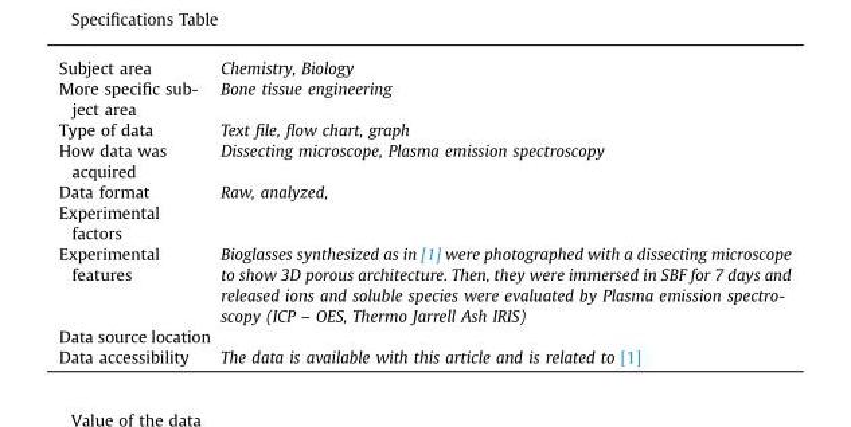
<table><tbody><tr><td>Subject area</td><td>Chemistry, Biology</td></tr><tr><td>More specific sub- ject area</td><td>Bone tissue engineering</td></tr><tr><td>Type of data</td><td>Text file, flow chart, graph</td></tr><tr><td>How data was acquired</td><td>Dissecting microscope, Plasma emission spectroscopy</td></tr><tr><td>Data format</td><td>Raw, analyzed,</td></tr><tr><td colspan="2">Experimental factors</td></tr><tr><td>Experimental features</td><td>Bioglasses synthesized as in [1] were photographed with a dissecting microscope to show 3D porous architecture. Then, they were immersed in SBF for 7 days and released ions and soluble species were evaluated by Plasma emission spectro- scopy (ICP – OES, Thermo Jarrell Ash IRIS)</td></tr><tr><td colspan="2">Data source location</td></tr><tr><td>Data accessibility</td><td>The data is available with this article and is related to [1]</td></tr></tbody></table>